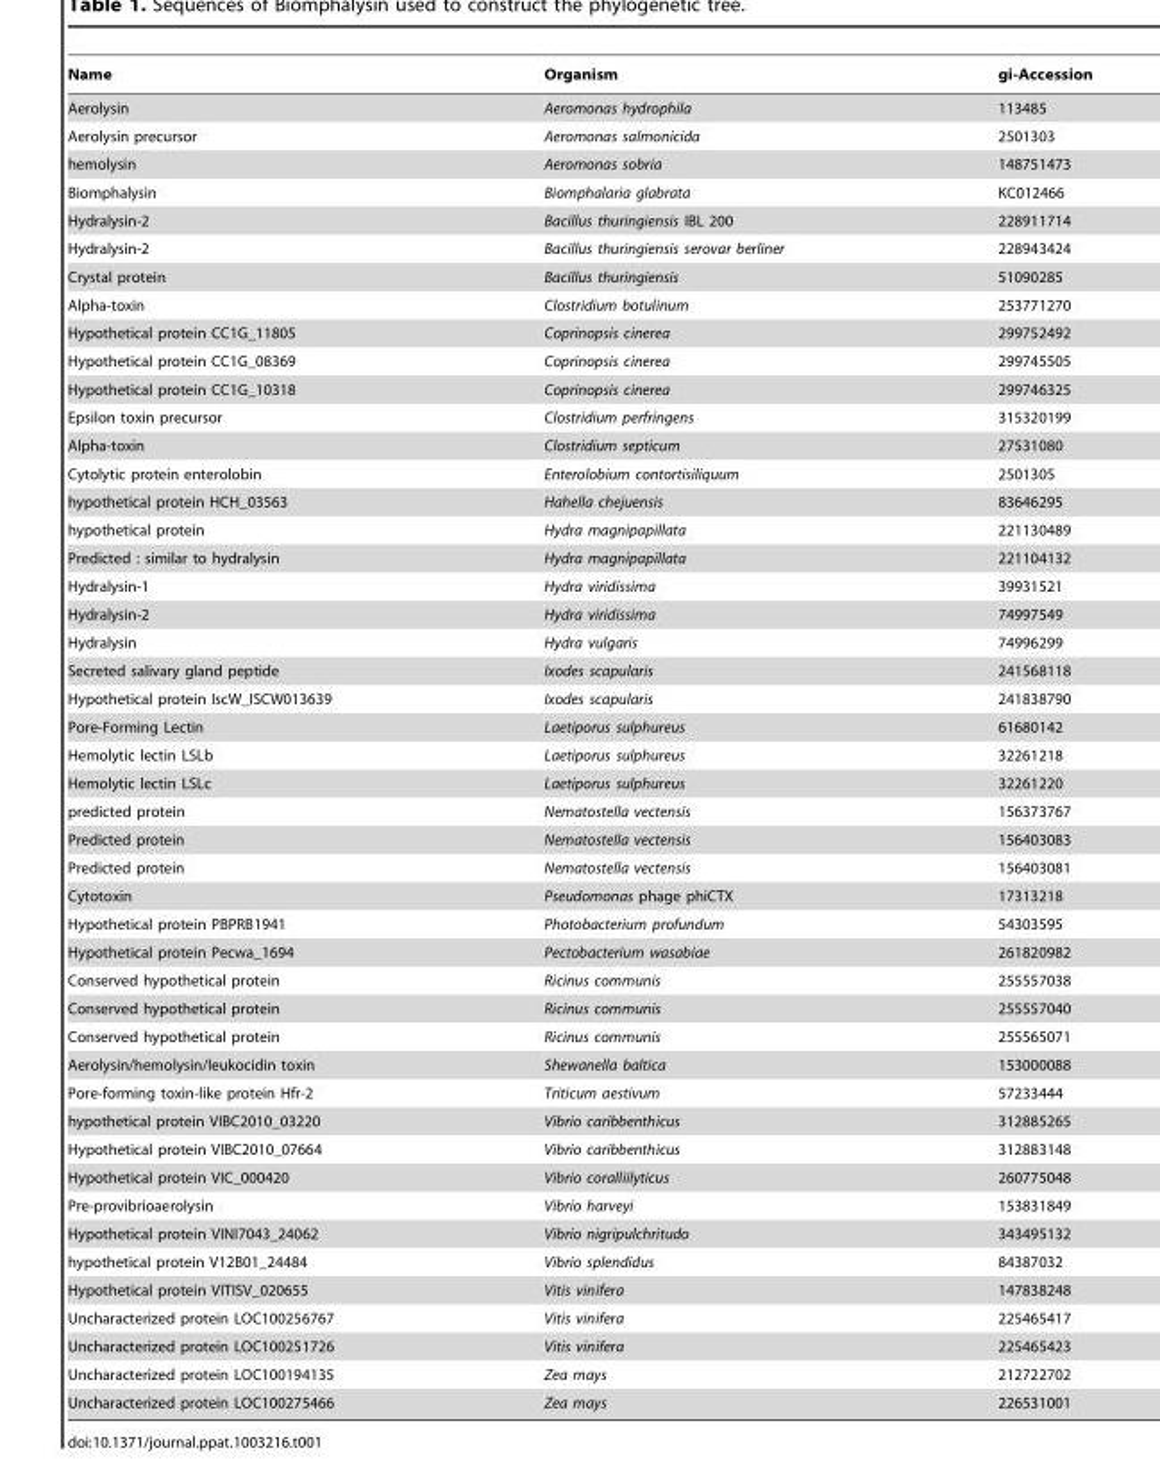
<table><thead><tr><td>Name</td><td>Organism</td><td>gi-Accession</td></tr></thead><tbody><tr><td>Aerolysin</td><td>Aeromonas hydrophila</td><td>113485</td></tr><tr><td>Aerolysin precursor</td><td>Aeromonas salmonicida</td><td>2501303</td></tr><tr><td>hemolysin</td><td>Aeromonas sobria</td><td>148751473</td></tr><tr><td>Biomphalysin</td><td>Biomphalaria glabrata</td><td>KC012466</td></tr><tr><td>Hydralysin-2</td><td>Bacillus thuringiensis IBL 200</td><td>228911714</td></tr><tr><td>Hydralysin-2</td><td>Bacillus thuringiensis serovar berliner</td><td>228943424</td></tr><tr><td>Crystal protein</td><td>Bacillus thuringiensis</td><td>51090285</td></tr><tr><td>Alpha-toxin</td><td>Clostridium botulinum</td><td>253771270</td></tr><tr><td>Hypothetical protein CC1G_11805</td><td>Coprinopsis cinerea</td><td>299752492</td></tr><tr><td>Hypothetical protein CC1G_08369</td><td>Coprinopsis cinerea</td><td>299745505</td></tr><tr><td>Hypothetical protein CC1G_10318</td><td>Coprinopsis cinerea</td><td>299746325</td></tr><tr><td>Epsilon toxin precursor</td><td>Clostridium perfringens</td><td>315320199</td></tr><tr><td>Alpha-toxin</td><td>Clostridium septicum</td><td>27531080</td></tr><tr><td>Cytolytic protein enterolobin</td><td>Enterolobium contortisiliquum</td><td>2501305</td></tr><tr><td>hypothetical protein HCH_03563</td><td>Hahella chejuensis</td><td>83646295</td></tr><tr><td>hypothetical protein</td><td>Hydra magnipapillata</td><td>221130489</td></tr><tr><td>Predicted : similar to hydralysin</td><td>Hydra magnipapillata</td><td>221104132</td></tr><tr><td>Hydralysin-1</td><td>Hydra viridissima</td><td>39931521</td></tr><tr><td>Hydralysin-2</td><td>Hydra viridissima</td><td>74997549</td></tr><tr><td>Hydralysin</td><td>Hydra vulgaris</td><td>74996299</td></tr><tr><td>Secreted salivary gland peptide</td><td>Ixodes scapularis</td><td>241568118</td></tr><tr><td>Hypothetical protein IscW_ISCW013639</td><td>Ixodes scapularis</td><td>241838790</td></tr><tr><td>Pore-Forming Lectin</td><td>Laetiporus sulphureus</td><td>61680142</td></tr><tr><td>Hemolytic lectin LSLb</td><td>Laetiporus sulphureus</td><td>32261218</td></tr><tr><td>Hemolytic lectin LSLc</td><td>Laetiporus sulphureus</td><td>32261220</td></tr><tr><td>predicted protein</td><td>Nematostella vectensis</td><td>156373767</td></tr><tr><td>Predicted protein</td><td>Nematostella vectensis</td><td>156403083</td></tr><tr><td>Predicted protein</td><td>Nematostella vectensis</td><td>156403081</td></tr><tr><td>Cytotoxin</td><td>Pseudomonas phage phiCTX</td><td>17313218</td></tr><tr><td>Hypothetical protein PBPRB1941</td><td>Photobacterium profundum</td><td>54303595</td></tr><tr><td>Hypothetical protein Pecwa_1694</td><td>Pectobacterium wasabiae</td><td>261820982</td></tr><tr><td>Conserved hypothetical protein</td><td>Ricinus communis</td><td>255557038</td></tr><tr><td>Conserved hypothetical protein</td><td>Ricinus communis</td><td>255557040</td></tr><tr><td>Conserved hypothetical protein</td><td>Ricinus communis</td><td>255565071</td></tr><tr><td>Aerolysin/hemolysin/leukocidin toxin</td><td>Shewanella baltica</td><td>153000088</td></tr><tr><td>Pore-forming toxin-like protein Hfr-2</td><td>Triticum aestivum</td><td>57233444</td></tr><tr><td>hypothetical protein VIBC2010_03220</td><td>Vibrio caribbenthicus</td><td>312885265</td></tr><tr><td>Hypothetical protein VIBC2010_07664</td><td>Vibrio caribbenthicus</td><td>312883148</td></tr><tr><td>Hypothetical protein VIC_000420</td><td>Vibrio coralliilyticus</td><td>260775048</td></tr><tr><td>Pre-provibrioaerolysin</td><td>Vibrio harveyi</td><td>153831849</td></tr><tr><td>Hypothetical protein VINI7043_24062</td><td>Vibrio nigripulchritudo</td><td>343495132</td></tr><tr><td>hypothetical protein V12B01_24484</td><td>Vibrio splendidus</td><td>84387032</td></tr><tr><td>Hypothetical protein VITISV_020655</td><td>Vitis vinifera</td><td>147838248</td></tr><tr><td>Uncharacterized protein LOC100256767</td><td>Vitis vinifera</td><td>225465417</td></tr><tr><td>Uncharacterized protein LOC100251726</td><td>Vitis vinifera</td><td>225465423</td></tr><tr><td>Uncharacterized protein LOC100194135</td><td>Zea mays</td><td>212722702</td></tr><tr><td>Uncharacterized protein LOC100275466</td><td>Zea mays</td><td>226531001</td></tr></tbody></table>